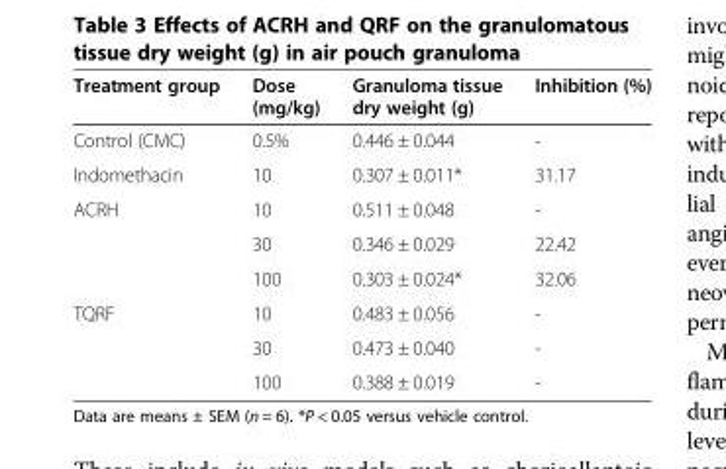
<table><thead><tr><td>Treatment group</td><td>Dose (mg/kg)</td><td>Granuloma tissue dry weight (g)</td><td>Inhibition (%)</td></tr></thead><tbody><tr><td>Control (CMC)</td><td>0.5%</td><td>0.446 ± 0.044</td><td>-</td></tr><tr><td>Indomethacin</td><td>10</td><td>0.307 ± 0.011*</td><td>31.17</td></tr><tr><td rowspan="3">ACRH</td><td>10</td><td>0.511 ± 0.048</td><td>-</td></tr><tr><td>30</td><td>0.346 ± 0.029</td><td>22.42</td></tr><tr><td>100</td><td>0.303 ± 0.024*</td><td>32.06</td></tr><tr><td rowspan="3">TQRF</td><td>10</td><td>0.483 ± 0.056</td><td>-</td></tr><tr><td>30</td><td>0.473 ± 0.040</td><td>-</td></tr><tr><td>100</td><td>0.388 ± 0.019</td><td>-</td></tr></tbody></table>